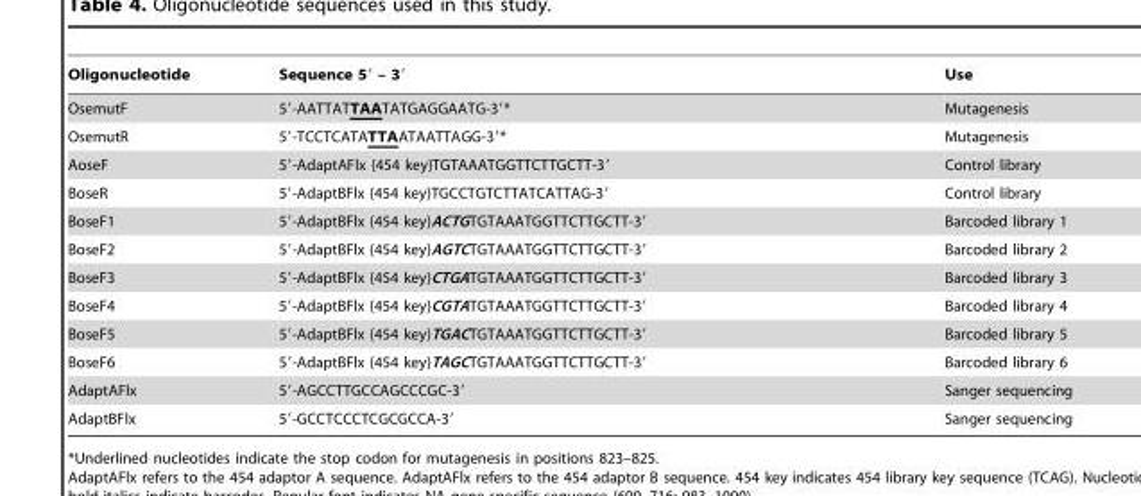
<table><thead><tr><td>Oligonucleotide</td><td>Sequence 5′ – 3′</td><td>Use</td></tr></thead><tbody><tr><td>OsemutF</td><td>5′-AATTATTAATATGAGGAATG-3′*</td><td>Mutagenesis</td></tr><tr><td>OsemutR</td><td>5′-TCCTCATATTAATAATTAGG-3′*</td><td>Mutagenesis</td></tr><tr><td>AoseF</td><td>5′-AdaptAFlx {454 key}TGTAAATGGTTCTTGCTT-3′</td><td>Control library</td></tr><tr><td>BoseR</td><td>5′-AdaptBFlx {454 key}TGCCTGTCTTATCATTAG-3′</td><td>Control library</td></tr><tr><td>BoseF1</td><td>5′-AdaptBFlx {454 key}ACTGTGTAAATGGTTCTTGCTT-3′</td><td>Barcoded library 1</td></tr><tr><td>BoseF2</td><td>5′-AdaptBFlx {454 key}AGTCTGTAAATGGTTCTTGCTT-3′</td><td>Barcoded library 2</td></tr><tr><td>BoseF3</td><td>5′-AdaptBFlx {454 key}CTGATGTAAATGGTTCTTGCTT-3′</td><td>Barcoded library 3</td></tr><tr><td>BoseF4</td><td>5′-AdaptBFlx {454 key}CGTATGTAAATGGTTCTTGCTT-3′</td><td>Barcoded library 4</td></tr><tr><td>BoseF5</td><td>5′-AdaptBFlx {454 key}TGACTGTAAATGGTTCTTGCTT-3′</td><td>Barcoded library 5</td></tr><tr><td>BoseF6</td><td>5′-AdaptBFlx {454 key}TAGCTGTAAATGGTTCTTGCTT-3′</td><td>Barcoded library 6</td></tr><tr><td>AdaptAFlx</td><td>5′-AGCCTTGCCAGCCCGC-3′</td><td>Sanger sequencing</td></tr><tr><td>AdaptBFlx</td><td>5′-GCCTCCCTCGCGCCA-3′</td><td>Sanger sequencing</td></tr></tbody></table>